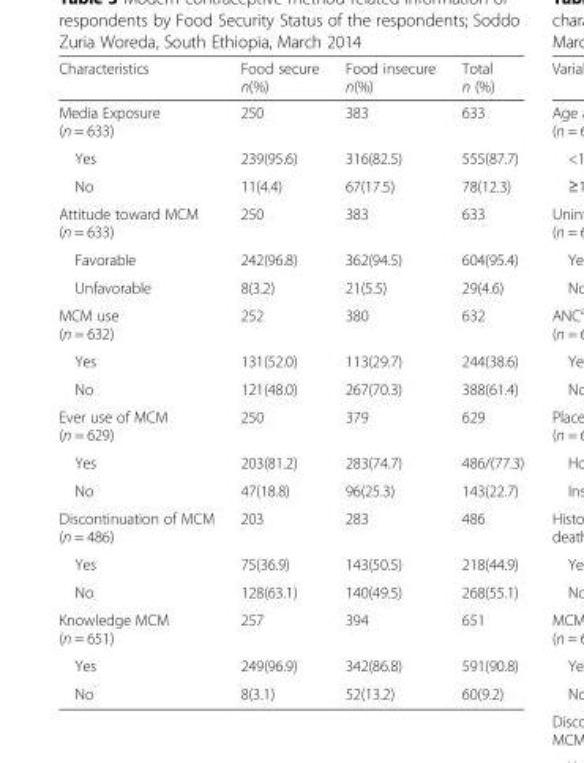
<table><thead><tr><td>Characteristics</td><td>Food secure n(%)</td><td>Food insecure n(%)</td><td>Total n (%)</td></tr></thead><tbody><tr><td>Media Exposure (n = 633)</td><td>250</td><td>383</td><td>633</td></tr><tr><td>Yes</td><td>239(95.6)</td><td>316(82.5)</td><td>555(87.7)</td></tr><tr><td>No</td><td>11(4.4)</td><td>67(17.5)</td><td>78(12.3)</td></tr><tr><td>Attitude toward MCM (n = 633)</td><td>250</td><td>383</td><td>633</td></tr><tr><td>Favorable</td><td>242(96.8)</td><td>362(94.5)</td><td>604(95.4)</td></tr><tr><td>Unfavorable</td><td>8(3.2)</td><td>21(5.5)</td><td>29(4.6)</td></tr><tr><td>MCM use (n = 632)</td><td>252</td><td>380</td><td>632</td></tr><tr><td>Yes</td><td>131(52.0)</td><td>113(29.7)</td><td>244(38.6)</td></tr><tr><td>No</td><td>121(48.0)</td><td>267(70.3)</td><td>388(61.4)</td></tr><tr><td>Ever use of MCM (n = 629)</td><td>250</td><td>379</td><td>629</td></tr><tr><td>Yes</td><td>203(81.2)</td><td>283(74.7)</td><td>486/(77.3)</td></tr><tr><td>No</td><td>47(18.8)</td><td>96(25.3)</td><td>143(22.7)</td></tr><tr><td>Discontinuation of MCM (n = 486)</td><td>203</td><td>283</td><td>486</td></tr><tr><td>Yes</td><td>75(36.9)</td><td>143(50.5)</td><td>218(44.9)</td></tr><tr><td>No</td><td>128(63.1)</td><td>140(49.5)</td><td>268(55.1)</td></tr><tr><td>Knowledge MCM (n = 651)</td><td>257</td><td>394</td><td>651</td></tr><tr><td>Yes</td><td>249(96.9)</td><td>342(86.8)</td><td>591(90.8)</td></tr><tr><td>No</td><td>8(3.1)</td><td>52(13.2)</td><td>60(9.2)</td></tr></tbody></table>